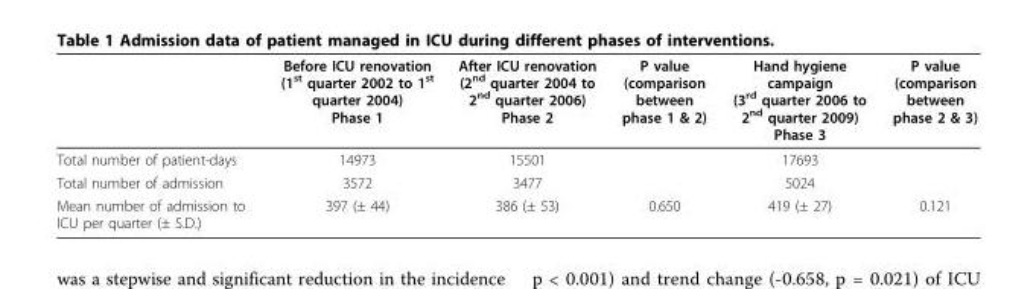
<table><thead><tr><td></td><td>Before ICU renovation (1<sup>st</sup> quarter 2002 to 1<sup>st</sup> quarter 2004) Phase 1</td><td>After ICU renovation (2<sup>nd</sup> quarter 2004 to 2<sup>nd</sup> quarter 2006) Phase 2</td><td>P value (comparison between phase 1 &amp; 2)</td><td>Hand hygiene campaign (3<sup>rd</sup> quarter 2006 to 2<sup>nd</sup> quarter 2009) Phase 3</td><td>P value (comparison between phase 2 &amp; 3)</td></tr></thead><tbody><tr><td>Total number of patient-days</td><td>14973</td><td>15501</td><td></td><td>17693</td><td></td></tr><tr><td>Total number of admission</td><td>3572</td><td>3477</td><td></td><td>5024</td><td></td></tr><tr><td>Mean number of admission to ICU per quarter (± S.D.)</td><td>397 (± 44)</td><td>386 (± 53)</td><td>0.650</td><td>419 (± 27)</td><td>0.121</td></tr></tbody></table>